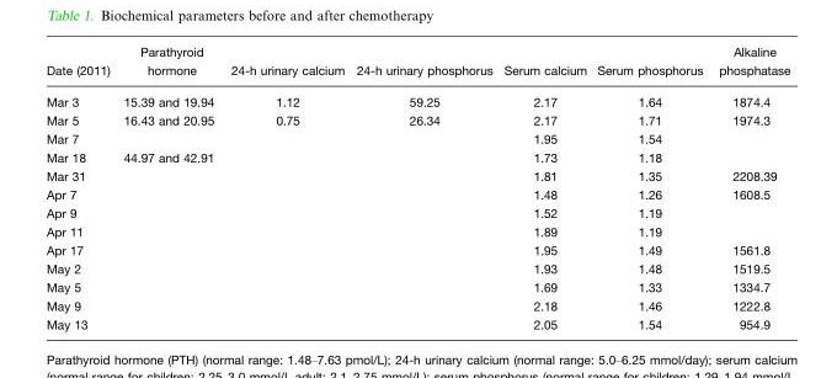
<table><thead><tr><td>Date (2011)</td><td>Parathyroid hormone</td><td>24-h urinary calcium</td><td>24-h urinary phosphorus</td><td>Serum calcium</td><td>Serum phosphorus</td><td>Alkaline phosphatase</td></tr></thead><tbody><tr><td>Mar 3</td><td>15.39 and 19.94</td><td>1.12</td><td>59.25</td><td>2.17</td><td>1.64</td><td>1874.4</td></tr><tr><td>Mar 5</td><td>16.43 and 20.95</td><td>0.75</td><td>26.34</td><td>2.17</td><td>1.71</td><td>1974.3</td></tr><tr><td>Mar 7</td><td></td><td></td><td></td><td>1.95</td><td>1.54</td><td></td></tr><tr><td>Mar 18</td><td>44.97 and 42.91</td><td></td><td></td><td>1.73</td><td>1.18</td><td></td></tr><tr><td>Mar 31</td><td></td><td></td><td></td><td>1.81</td><td>1.35</td><td>2208.39</td></tr><tr><td>Apr 7</td><td></td><td></td><td></td><td>1.48</td><td>1.26</td><td>1608.5</td></tr><tr><td>Apr 9</td><td></td><td></td><td></td><td>1.52</td><td>1.19</td><td></td></tr><tr><td>Apr 11</td><td></td><td></td><td></td><td>1.89</td><td>1.19</td><td></td></tr><tr><td>Apr 17</td><td></td><td></td><td></td><td>1.95</td><td>1.49</td><td>1561.8</td></tr><tr><td>May 2</td><td></td><td></td><td></td><td>1.93</td><td>1.48</td><td>1519.5</td></tr><tr><td>May 5</td><td></td><td></td><td></td><td>1.69</td><td>1.33</td><td>1334.7</td></tr><tr><td>May 9</td><td></td><td></td><td></td><td>2.18</td><td>1.46</td><td>1222.8</td></tr><tr><td>May 13</td><td></td><td></td><td></td><td>2.05</td><td>1.54</td><td>954.9</td></tr></tbody></table>